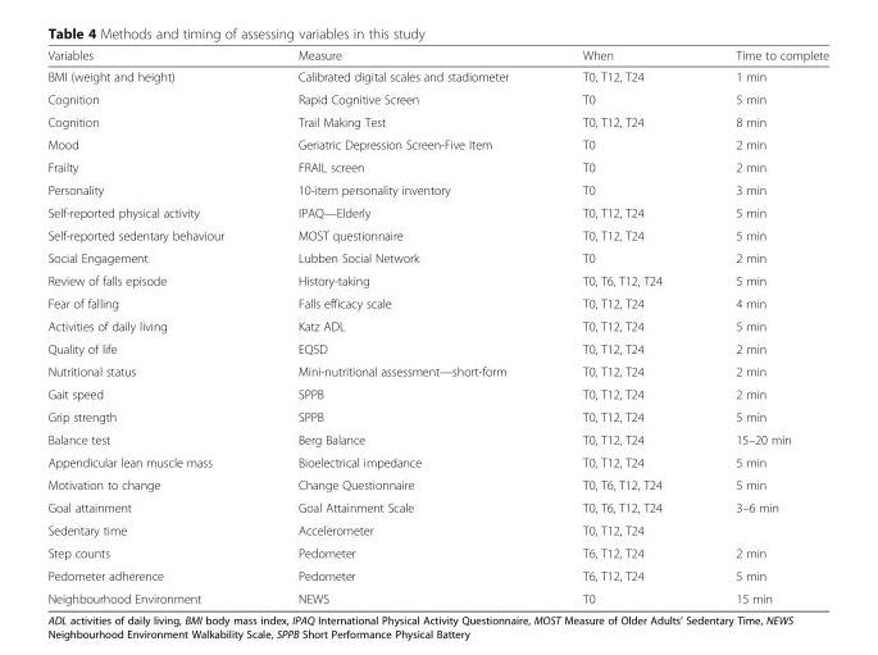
<table><thead><tr><td>Variables</td><td>Measure</td><td>When</td><td>Time to complete</td></tr></thead><tbody><tr><td>BMI (weight and height)</td><td>Calibrated digital scales and stadiometer</td><td>T0, T12, T24</td><td>1 min</td></tr><tr><td>Cognition</td><td>Rapid Cognitive Screen</td><td>T0</td><td>5 min</td></tr><tr><td>Cognition</td><td>Trail Making Test</td><td>T0, T12, T24</td><td>8 min</td></tr><tr><td>Mood</td><td>Geriatric Depression Screen-Five Item</td><td>T0</td><td>2 min</td></tr><tr><td>Frailty</td><td>FRAIL screen</td><td>T0</td><td>2 min</td></tr><tr><td>Personality</td><td>10-item personality inventory</td><td>T0</td><td>3 min</td></tr><tr><td>Self-reported physical activity</td><td>IPAQ—Elderly</td><td>T0, T12, T24</td><td>5 min</td></tr><tr><td>Self-reported sedentary behaviour</td><td>MOST questionnaire</td><td>T0, T12, T24</td><td>5 min</td></tr><tr><td>Social Engagement</td><td>Lubben Social Network</td><td>T0</td><td>2 min</td></tr><tr><td>Review of falls episode</td><td>History-taking</td><td>T0, T6, T12, T24</td><td>5 min</td></tr><tr><td>Fear of falling</td><td>Falls efficacy scale</td><td>T0, T12, T24</td><td>4 min</td></tr><tr><td>Activities of daily living</td><td>Katz ADL</td><td>T0, T12, T24</td><td>5 min</td></tr><tr><td>Quality of life</td><td>EQ5D</td><td>T0, T12, T24</td><td>2 min</td></tr><tr><td>Nutritional status</td><td>Mini-nutritional assessment—short-form</td><td>T0, T12, T24</td><td>2 min</td></tr><tr><td>Gait speed</td><td>SPPB</td><td>T0, T12, T24</td><td>2 min</td></tr><tr><td>Grip strength</td><td>SPPB</td><td>T0, T12, T24</td><td>5 min</td></tr><tr><td>Balance test</td><td>Berg Balance</td><td>T0, T12, T24</td><td>15–20 min</td></tr><tr><td>Appendicular lean muscle mass</td><td>Bioelectrical impedance</td><td>T0, T12, T24</td><td>5 min</td></tr><tr><td>Motivation to change</td><td>Change Questionnaire</td><td>T0, T6, T12, T24</td><td>5 min</td></tr><tr><td>Goal attainment</td><td>Goal Attainment Scale</td><td>T0, T6, T12, T24</td><td>3–6 min</td></tr><tr><td>Sedentary time</td><td>Accelerometer</td><td>T0, T12, T24</td><td></td></tr><tr><td>Step counts</td><td>Pedometer</td><td>T6, T12, T24</td><td>2 min</td></tr><tr><td>Pedometer adherence</td><td>Pedometer</td><td>T6, T12, T24</td><td>5 min</td></tr><tr><td>Neighbourhood Environment</td><td>NEWS</td><td>T0</td><td>15 min</td></tr></tbody></table>